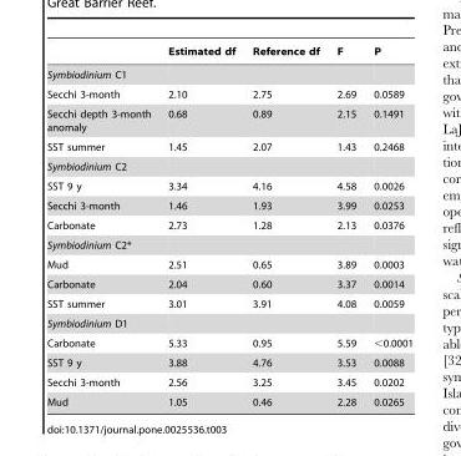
<table><thead><tr><td></td><td>Estimated df</td><td>Reference df</td><td>F</td><td>P</td></tr></thead><tbody><tr><td colspan="5">Symbiodinium C1</td></tr><tr><td>Secchi 3-month</td><td>2.10</td><td>2.75</td><td>2.69</td><td>0.0589</td></tr><tr><td>Secchi depth 3-month anomaly</td><td>0.68</td><td>0.89</td><td>2.15</td><td>0.1491</td></tr><tr><td>SST summer</td><td>1.45</td><td>2.07</td><td>1.43</td><td>0.2468</td></tr><tr><td colspan="5">Symbiodinium C2</td></tr><tr><td>SST 9 y</td><td>3.34</td><td>4.16</td><td>4.58</td><td>0.0026</td></tr><tr><td>Secchi 3-month</td><td>1.46</td><td>1.93</td><td>3.99</td><td>0.0253</td></tr><tr><td>Carbonate</td><td>2.73</td><td>1.28</td><td>2.13</td><td>0.0376</td></tr><tr><td colspan="5">Symbiodinium C2*</td></tr><tr><td>Mud</td><td>2.51</td><td>0.65</td><td>3.89</td><td>0.0003</td></tr><tr><td>Carbonate</td><td>2.04</td><td>0.60</td><td>3.37</td><td>0.0014</td></tr><tr><td>SST summer</td><td>3.01</td><td>3.91</td><td>4.08</td><td>0.0059</td></tr><tr><td colspan="5">Symbiodinium D1</td></tr><tr><td>Carbonate</td><td>5.33</td><td>0.95</td><td>5.59</td><td>&lt;0.0001</td></tr><tr><td>SST 9 y</td><td>3.88</td><td>4.76</td><td>3.53</td><td>0.0088</td></tr><tr><td>Secchi 3-month</td><td>2.56</td><td>3.25</td><td>3.45</td><td>0.0202</td></tr><tr><td>Mud</td><td>1.05</td><td>0.46</td><td>2.28</td><td>0.0265</td></tr></tbody></table>